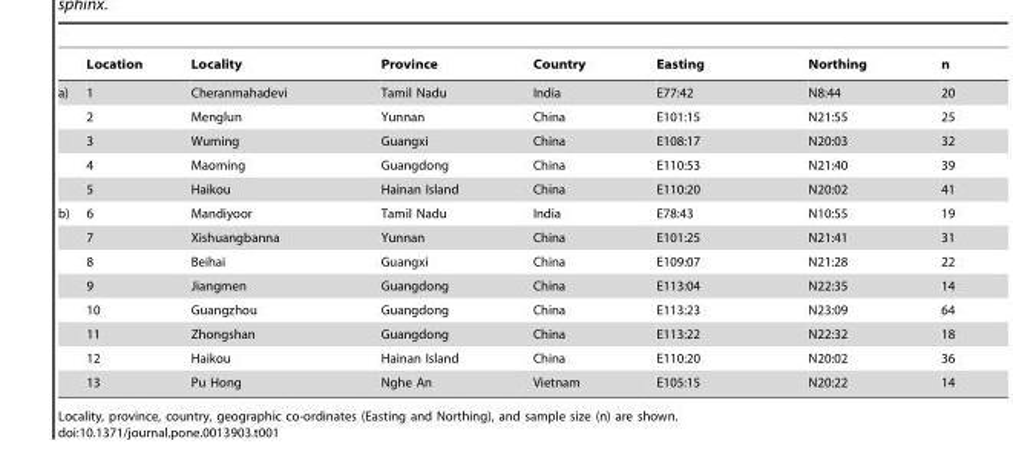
<table><thead><tr><td></td><td>Location</td><td>Locality</td><td>Province</td><td>Country</td><td>Easting</td><td>Northing</td><td>n</td></tr></thead><tbody><tr><td rowspan="5">a)</td><td>1</td><td>Cheranmahadevi</td><td>Tamil Nadu</td><td>India</td><td>E77:42</td><td>N8:44</td><td>20</td></tr><tr><td>2</td><td>Menglun</td><td>Yunnan</td><td>China</td><td>E101:15</td><td>N21:55</td><td>25</td></tr><tr><td>3</td><td>Wuming</td><td>Guangxi</td><td>China</td><td>E108:17</td><td>N20:03</td><td>32</td></tr><tr><td>4</td><td>Maoming</td><td>Guangdong</td><td>China</td><td>E110:53</td><td>N21:40</td><td>39</td></tr><tr><td>5</td><td>Haikou</td><td>Hainan Island</td><td>China</td><td>E110:20</td><td>N20:02</td><td>41</td></tr><tr><td rowspan="8">b)</td><td>6</td><td>Mandiyoor</td><td>Tamil Nadu</td><td>India</td><td>E78:43</td><td>N10:55</td><td>19</td></tr><tr><td>7</td><td>Xishuangbanna</td><td>Yunnan</td><td>China</td><td>E101:25</td><td>N21:41</td><td>31</td></tr><tr><td>8</td><td>Beihai</td><td>Guangxi</td><td>China</td><td>E109:07</td><td>N21:28</td><td>22</td></tr><tr><td>9</td><td>Jiangmen</td><td>Guangdong</td><td>China</td><td>E113:04</td><td>N22:35</td><td>14</td></tr><tr><td>10</td><td>Guangzhou</td><td>Guangdong</td><td>China</td><td>E113:23</td><td>N23:09</td><td>64</td></tr><tr><td>11</td><td>Zhongshan</td><td>Guangdong</td><td>China</td><td>E113:22</td><td>N22:32</td><td>18</td></tr><tr><td>12</td><td>Haikou</td><td>Hainan Island</td><td>China</td><td>E110:20</td><td>N20:02</td><td>36</td></tr><tr><td>13</td><td>Pu Hong</td><td>Nghe An</td><td>Vietnam</td><td>E105:15</td><td>N20:22</td><td>14</td></tr></tbody></table>